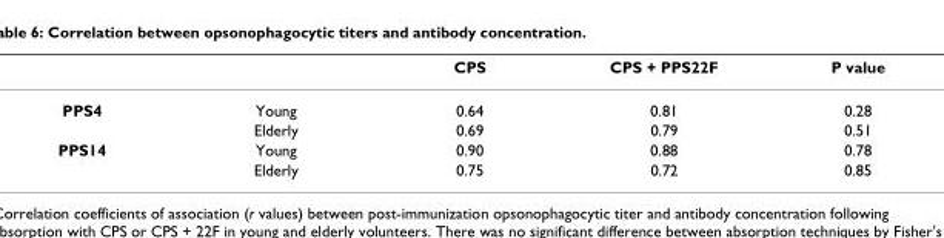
<table><thead><tr><td></td><td></td><td>CPS</td><td>CPS + PPS22F</td><td>P value</td></tr></thead><tbody><tr><td rowspan="2">PPS4</td><td>Young</td><td>0.64</td><td>0.81</td><td>0.28</td></tr><tr><td>Elderly</td><td>0.69</td><td>0.79</td><td>0.51</td></tr><tr><td rowspan="2">PPS14</td><td>Young</td><td>0.90</td><td>0.88</td><td>0.78</td></tr><tr><td>Elderly</td><td>0.75</td><td>0.72</td><td>0.85</td></tr></tbody></table>